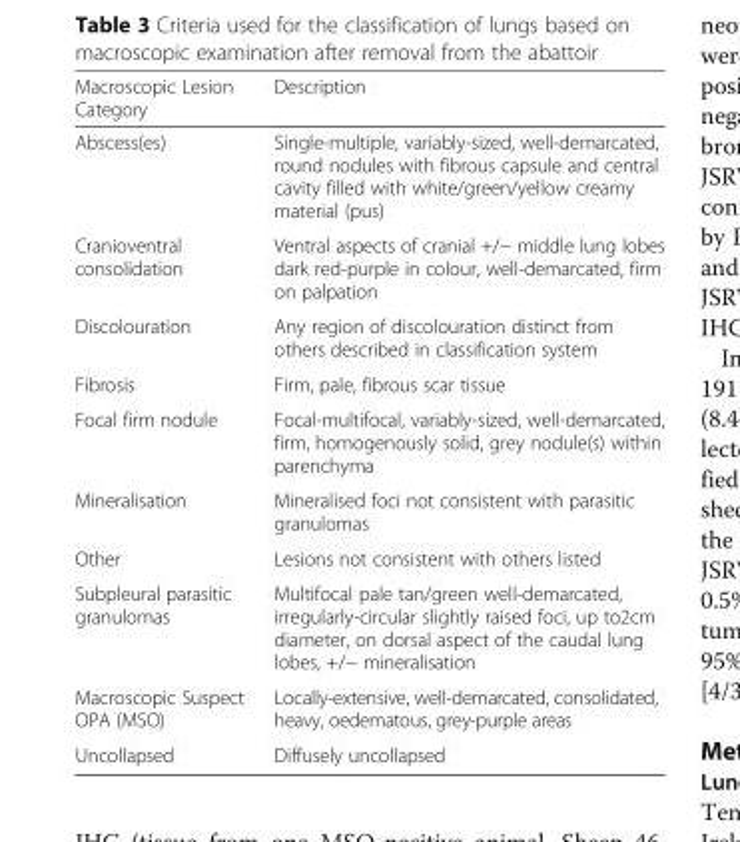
<table><thead><tr><td>Macroscopic Lesion Category</td><td>Description</td></tr></thead><tbody><tr><td>Abscess(es)</td><td>Single-multiple, variably-sized, well-demarcated, round nodules with fibrous capsule and central cavity filled with white/green/yellow creamy material (pus)</td></tr><tr><td>Cranioventral consolidation</td><td>Ventral aspects of cranial +/− middle lung lobes dark red-purple in colour, well-demarcated, firm on palpation</td></tr><tr><td>Discolouration</td><td>Any region of discolouration distinct from others described in classification system</td></tr><tr><td>Fibrosis</td><td>Firm, pale, fibrous scar tissue</td></tr><tr><td>Focal firm nodule</td><td>Focal-multifocal, variably-sized, well-demarcated, firm, homogenously solid, grey nodule(s) within parenchyma</td></tr><tr><td>Mineralisation</td><td>Mineralised foci not consistent with parasitic granulomas</td></tr><tr><td>Other</td><td>Lesions not consistent with others listed</td></tr><tr><td>Subpleural parasitic granulomas</td><td>Multifocal pale tan/green well-demarcated, irregularly-circular slightly raised foci, up to2cm diameter, on dorsal aspect of the caudal lung lobes, +/− mineralisation</td></tr><tr><td>Macroscopic Suspect OPA (MSO)</td><td>Locally-extensive, well-demarcated, consolidated, heavy, oedematous, grey-purple areas</td></tr><tr><td>Uncollapsed</td><td>Diffusely uncollapsed</td></tr></tbody></table>